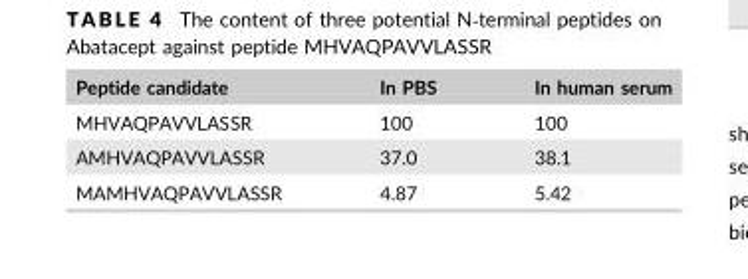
<table><thead><tr><td>Peptide candidate</td><td>In PBS</td><td>In human serum</td></tr></thead><tbody><tr><td>MHVAQPAVVLASSR</td><td>100</td><td>100</td></tr><tr><td>AMHVAQPAVVLASSR</td><td>37.0</td><td>38.1</td></tr><tr><td>MAMHVAQPAVVLASSR</td><td>4.87</td><td>5.42</td></tr></tbody></table>